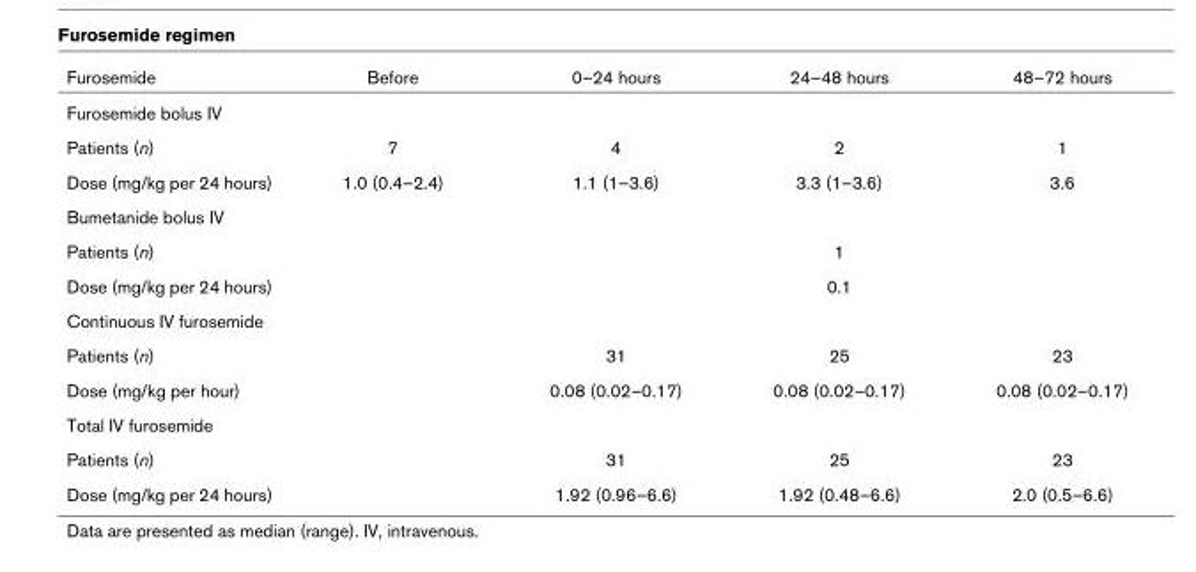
<table><thead><tr><td>Furosemide</td><td>Before</td><td>0–24 hours</td><td>24–48 hours</td><td>48–72 hours</td></tr></thead><tbody><tr><td colspan="5">Furosemide bolus IV</td></tr><tr><td>Patients (n)</td><td>7</td><td>4</td><td>2</td><td>1</td></tr><tr><td>Dose (mg/kg per 24 hours)</td><td>1.0 (0.4–2.4)</td><td>1.1 (1–3.6)</td><td>3.3 (1–3.6)</td><td>3.6</td></tr><tr><td colspan="5">Bumetanide bolus IV</td></tr><tr><td>Patients (n)</td><td></td><td></td><td>1</td><td></td></tr><tr><td>Dose (mg/kg per 24 hours)</td><td></td><td></td><td>0.1</td><td></td></tr><tr><td colspan="5">Continuous IV furosemide</td></tr><tr><td>Patients (n)</td><td></td><td>31</td><td>25</td><td>23</td></tr><tr><td>Dose (mg/kg per hour)</td><td></td><td>0.08 (0.02–0.17)</td><td>0.08 (0.02–0.17)</td><td>0.08 (0.02–0.17)</td></tr><tr><td colspan="5">Total IV furosemide</td></tr><tr><td>Patients (n)</td><td></td><td>31</td><td>25</td><td>23</td></tr><tr><td>Dose (mg/kg per 24 hours)</td><td></td><td>1.92 (0.96–6.6)</td><td>1.92 (0.48–6.6)</td><td>2.0 (0.5–6.6)</td></tr></tbody></table>